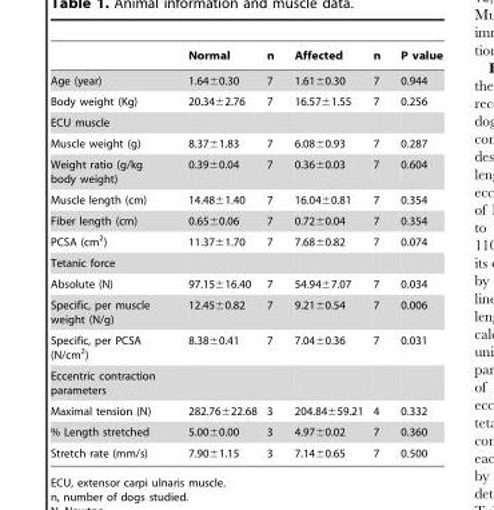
<table><thead><tr><td></td><td>Normal</td><td>n</td><td>Affected</td><td>n</td><td>P value</td></tr></thead><tbody><tr><td>Age (year)</td><td>1.64±0.30</td><td>7</td><td>1.61±0.30</td><td>7</td><td>0.944</td></tr><tr><td>Body weight (Kg)</td><td>20.34±2.76</td><td>7</td><td>16.57±1.55</td><td>7</td><td>0.256</td></tr><tr><td colspan="6">ECU muscle</td></tr><tr><td>Muscle weight (g)</td><td>8.37±1.83</td><td>7</td><td>6.08±0.93</td><td>7</td><td>0.287</td></tr><tr><td>Weight ratio (g/kg body weight)</td><td>0.39±0.04</td><td>7</td><td>0.36±0.03</td><td>7</td><td>0.604</td></tr><tr><td>Muscle length (cm)</td><td>14.48±1.40</td><td>7</td><td>16.04±0.81</td><td>7</td><td>0.354</td></tr><tr><td>Fiber length (cm)</td><td>0.65±0.06</td><td>7</td><td>0.72±0.04</td><td>7</td><td>0.354</td></tr><tr><td>PCSA (cm<sup>2</sup>)</td><td>11.37±1.70</td><td>7</td><td>7.68±0.82</td><td>7</td><td>0.074</td></tr><tr><td colspan="6">Tetanic force</td></tr><tr><td>Absolute (N)</td><td>97.15±16.40</td><td>7</td><td>54.94±7.07</td><td>7</td><td>0.034</td></tr><tr><td>Specific, per muscle weight (N/g)</td><td>12.45±0.82</td><td>7</td><td>9.21±0.54</td><td>7</td><td>0.006</td></tr><tr><td>Specific, per PCSA (N/cm<sup>2</sup>)</td><td>8.38±0.41</td><td>7</td><td>7.04±0.36</td><td>7</td><td>0.031</td></tr><tr><td colspan="6">Eccentric contraction parameters</td></tr><tr><td>Maximal tension (N)</td><td>282.76±22.68</td><td>3</td><td>204.84±59.21</td><td>4</td><td>0.332</td></tr><tr><td>% Length stretched</td><td>5.00±0.00</td><td>3</td><td>4.97±0.02</td><td>7</td><td>0.360</td></tr><tr><td>Stretch rate (mm/s)</td><td>7.90±1.15</td><td>3</td><td>7.14±0.65</td><td>7</td><td>0.500</td></tr></tbody></table>